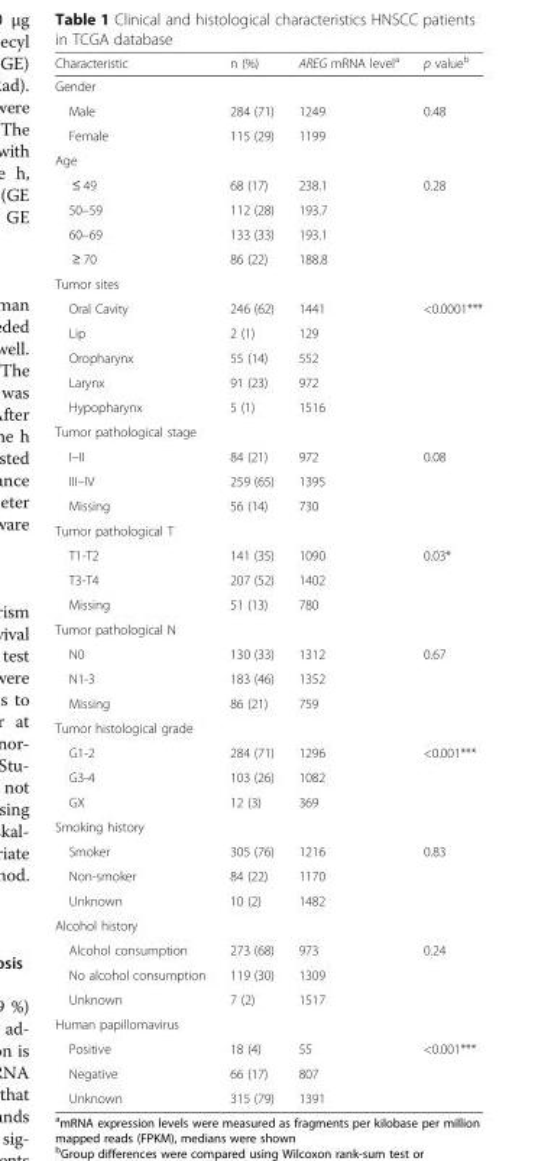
<table><thead><tr><td>Characteristic</td><td>n (%)</td><td>AREG mRNA level<sup>a</sup></td><td>p value<sup>b</sup></td></tr></thead><tbody><tr><td colspan="4">Gender</td></tr><tr><td>Male</td><td>284 (71)</td><td>1249</td><td rowspan="2">0.48</td></tr><tr><td>Female</td><td>115 (29)</td><td>1199</td></tr><tr><td colspan="4">Age</td></tr><tr><td>≤ 49</td><td>68 (17)</td><td>238.1</td><td rowspan="4">0.28</td></tr><tr><td>50–59</td><td>112 (28)</td><td>193.7</td></tr><tr><td>60–69</td><td>133 (33)</td><td>193.1</td></tr><tr><td>≥ 70</td><td>86 (22)</td><td>188.8</td></tr><tr><td colspan="4">Tumor sites</td></tr><tr><td>Oral Cavity</td><td>246 (62)</td><td>1441</td><td rowspan="5">&lt;0.0001***</td></tr><tr><td>Lip</td><td>2 (1)</td><td>129</td></tr><tr><td>Oropharynx</td><td>55 (14)</td><td>552</td></tr><tr><td>Larynx</td><td>91 (23)</td><td>972</td></tr><tr><td>Hypopharynx</td><td>5 (1)</td><td>1516</td></tr><tr><td colspan="4">Tumor pathological stage</td></tr><tr><td>I–II</td><td>84 (21)</td><td>972</td><td rowspan="3">0.08</td></tr><tr><td>III–IV</td><td>259 (65)</td><td>1395</td></tr><tr><td>Missing</td><td>56 (14)</td><td>730</td></tr><tr><td colspan="4">Tumor pathological T</td></tr><tr><td>T1-T2</td><td>141 (35)</td><td>1090</td><td rowspan="3">0.03*</td></tr><tr><td>T3-T4</td><td>207 (52)</td><td>1402</td></tr><tr><td>Missing</td><td>51 (13)</td><td>780</td></tr><tr><td colspan="4">Tumor pathological N</td></tr><tr><td>N0</td><td>130 (33)</td><td>1312</td><td rowspan="3">0.67</td></tr><tr><td>N1-3</td><td>183 (46)</td><td>1352</td></tr><tr><td>Missing</td><td>86 (21)</td><td>759</td></tr><tr><td colspan="4">Tumor histological grade</td></tr><tr><td>G1-2</td><td>284 (71)</td><td>1296</td><td rowspan="3">&lt;0.001***</td></tr><tr><td>G3-4</td><td>103 (26)</td><td>1082</td></tr><tr><td>GX</td><td>12 (3)</td><td>369</td></tr><tr><td colspan="4">Smoking history</td></tr><tr><td>Smoker</td><td>305 (76)</td><td>1216</td><td rowspan="3">0.83</td></tr><tr><td>Non-smoker</td><td>84 (22)</td><td>1170</td></tr><tr><td>Unknown</td><td>10 (2)</td><td>1482</td></tr><tr><td colspan="4">Alcohol history</td></tr><tr><td>Alcohol consumption</td><td>273 (68)</td><td>973</td><td rowspan="3">0.24</td></tr><tr><td>No alcohol consumption</td><td>119 (30)</td><td>1309</td></tr><tr><td>Unknown</td><td>7 (2)</td><td>1517</td></tr><tr><td colspan="4">Human papillomavirus</td></tr><tr><td>Positive</td><td>18 (4)</td><td>55</td><td rowspan="3">&lt;0.001***</td></tr><tr><td>Negative</td><td>66 (17)</td><td>807</td></tr><tr><td>Unknown</td><td>315 (79)</td><td>1391</td></tr></tbody></table>